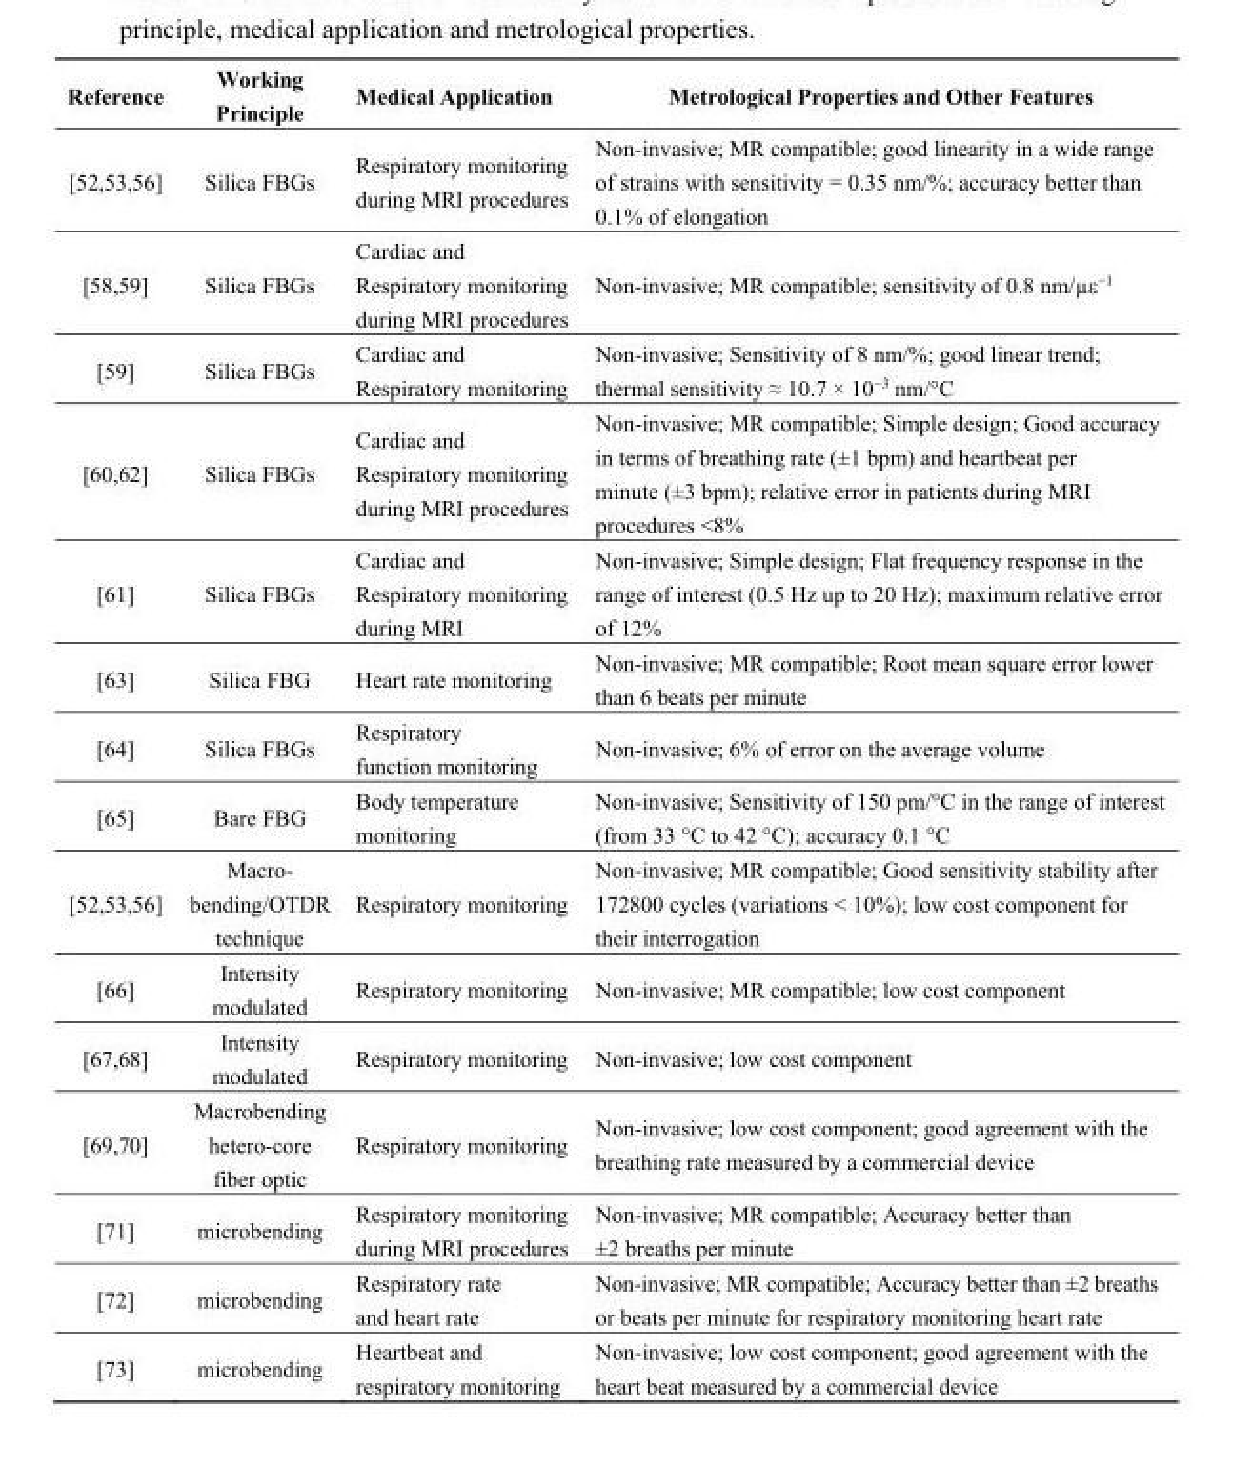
<table><thead><tr><td>Reference</td><td>Working Principle</td><td>Medical Application</td><td>Metrological Properties and Other Features</td></tr></thead><tbody><tr><td>[52,53,56]</td><td>Silica FBGs</td><td>Respiratory monitoring during MRI procedures</td><td>Non-invasive; MR compatible; good linearity in a wide range of strains with sensitivity = 0.35 nm/%; accuracy better than 0.1% of elongation</td></tr><tr><td>[58,59]</td><td>Silica FBGs</td><td>Cardiac and Respiratory monitoring during MRI procedures</td><td>Non-invasive; MR compatible; sensitivity of 0.8 nm/µε<sup>−1</sup></td></tr><tr><td>[59]</td><td>Silica FBGs</td><td>Cardiac and Respiratory monitoring</td><td>Non-invasive; Sensitivity of 8 nm/%; good linear trend; thermal sensitivity ≈ 10.7 × 10<sup>−3</sup> nm/°C</td></tr><tr><td>[60,62]</td><td>Silica FBGs</td><td>Cardiac and Respiratory monitoring during MRI procedures</td><td>Non-invasive; MR compatible; Simple design; Good accuracy in terms of breathing rate (±1 bpm) and heartbeat per minute (±3 bpm); relative error in patients during MRI procedures &lt;8%</td></tr><tr><td>[61]</td><td>Silica FBGs</td><td>Cardiac and Respiratory monitoring during MRI</td><td>Non-invasive; Simple design; Flat frequency response in the range of interest (0.5 Hz up to 20 Hz); maximum relative error of 12%</td></tr><tr><td>[63]</td><td>Silica FBG</td><td>Heart rate monitoring</td><td>Non-invasive; MR compatible; Root mean square error lower than 6 beats per minute</td></tr><tr><td>[64]</td><td>Silica FBGs</td><td>Respiratory function monitoring</td><td>Non-invasive; 6% of error on the average volume</td></tr><tr><td>[65]</td><td>Bare FBG</td><td>Body temperature monitoring</td><td>Non-invasive; Sensitivity of 150 pm/°C in the range of interest (from 33 °C to 42 °C); accuracy 0.1 °C</td></tr><tr><td>[52,53,56]</td><td>Macro- bending/OTDR technique</td><td>Respiratory monitoring</td><td>Non-invasive; MR compatible; Good sensitivity stability after 172800 cycles (variations &lt; 10%); low cost component for their interrogation</td></tr><tr><td>[66]</td><td>Intensity modulated</td><td>Respiratory monitoring</td><td>Non-invasive; MR compatible; low cost component</td></tr><tr><td>[67,68]</td><td>Intensity modulated</td><td>Respiratory monitoring</td><td>Non-invasive; low cost component</td></tr><tr><td>[69,70]</td><td>Macrobending hetero-core fiber optic</td><td>Respiratory monitoring</td><td>Non-invasive; low cost component; good agreement with the breathing rate measured by a commercial device</td></tr><tr><td>[71]</td><td>microbending</td><td>Respiratory monitoring during MRI procedures</td><td>Non-invasive; MR compatible; Accuracy better than ±2 breaths per minute</td></tr><tr><td>[72]</td><td>microbending</td><td>Respiratory rate and heart rate</td><td>Non-invasive; MR compatible; Accuracy better than ±2 breaths or beats per minute for respiratory monitoring heart rate</td></tr><tr><td>[73]</td><td>microbending</td><td>Heartbeat and respiratory monitoring</td><td>Non-invasive; low cost component; good agreement with the heart beat measured by a commercial device</td></tr></tbody></table>